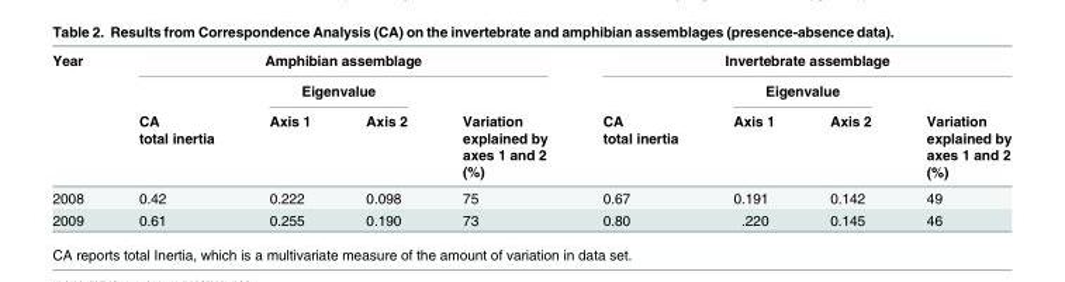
<table><thead><tr><td rowspan="3">Year</td><td colspan="4">Amphibian assemblage</td><td colspan="4">Invertebrate assemblage</td></tr><tr><td rowspan="2">CA total inertia</td><td colspan="2">Eigenvalue</td><td rowspan="2">Variation explained by axes 1 and 2 (%)</td><td rowspan="2">CA total inertia</td><td colspan="2">Eigenvalue</td><td rowspan="2">Variation explained by axes 1 and 2 (%)</td></tr><tr><td>Axis 1</td><td>Axis 2</td><td>Axis 1</td><td>Axis 2</td></tr></thead><tbody><tr><td>2008</td><td>0.42</td><td>0.222</td><td>0.098</td><td>75</td><td>0.67</td><td>0.191</td><td>0.142</td><td>49</td></tr><tr><td>2009</td><td>0.61</td><td>0.255</td><td>0.190</td><td>73</td><td>0.80</td><td>.220</td><td>0.145</td><td>46</td></tr></tbody></table>